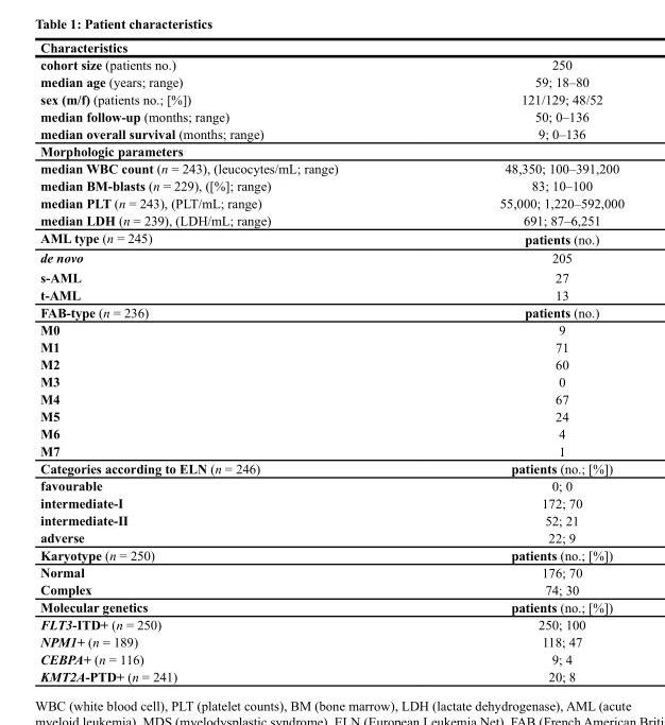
<table><thead><tr><td colspan="2">Characteristics</td></tr><tr><td>cohort size (patients no.)</td><td>250</td></tr></thead><tbody><tr><td>median age (years; range)</td><td>59; 18–80</td></tr><tr><td>sex (m/f) (patients no.; [%])</td><td>121/129; 48/52</td></tr><tr><td>median follow-up (months; range)</td><td>50; 0–136</td></tr><tr><td>median overall survival (months; range)</td><td>9; 0–136</td></tr><tr><td colspan="2">Morphologic parameters</td></tr><tr><td>median WBC count (n = 243), (leucocytes/mL; range)</td><td>48,350; 100–391,200</td></tr><tr><td>median BM-blasts (n = 229), ([%]; range)</td><td>83; 10–100</td></tr><tr><td>median PLT (n = 243), (PLT/mL; range)</td><td>55,000; 1,220–592,000</td></tr><tr><td>median LDH (n = 239), (LDH/mL; range)</td><td>691; 87–6,251</td></tr><tr><td>AML type (n = 245)</td><td>patients (no.)</td></tr><tr><td>de novo</td><td>205</td></tr><tr><td>s-AML</td><td>27</td></tr><tr><td>t-AML</td><td>13</td></tr><tr><td>FAB-type (n = 236)</td><td>patients (no.)</td></tr><tr><td>M0</td><td>9</td></tr><tr><td>M1</td><td>71</td></tr><tr><td>M2</td><td>60</td></tr><tr><td>M3</td><td>0</td></tr><tr><td>M4</td><td>67</td></tr><tr><td>M5</td><td>24</td></tr><tr><td>M6</td><td>4</td></tr><tr><td>M7</td><td>1</td></tr><tr><td>Categories according to ELN (n = 246)</td><td>patients (no.; [%])</td></tr><tr><td>favourable</td><td>0; 0</td></tr><tr><td>intermediate-I</td><td>172; 70</td></tr><tr><td>intermediate-II</td><td>52; 21</td></tr><tr><td>adverse</td><td>22; 9</td></tr><tr><td>Karyotype (n = 250)</td><td>patients (no.; [%])</td></tr><tr><td>Normal</td><td>176; 70</td></tr><tr><td>Complex</td><td>74; 30</td></tr><tr><td>Molecular genetics</td><td>patients (no.; [%])</td></tr><tr><td>FLT3-ITD+ (n = 250)</td><td>250; 100</td></tr><tr><td>NPM1+ (n = 189)</td><td>118; 47</td></tr><tr><td>CEBPA+ (n = 116)</td><td>9; 4</td></tr><tr><td>KMT2A-PTD+ (n = 241)</td><td>20; 8</td></tr></tbody></table>